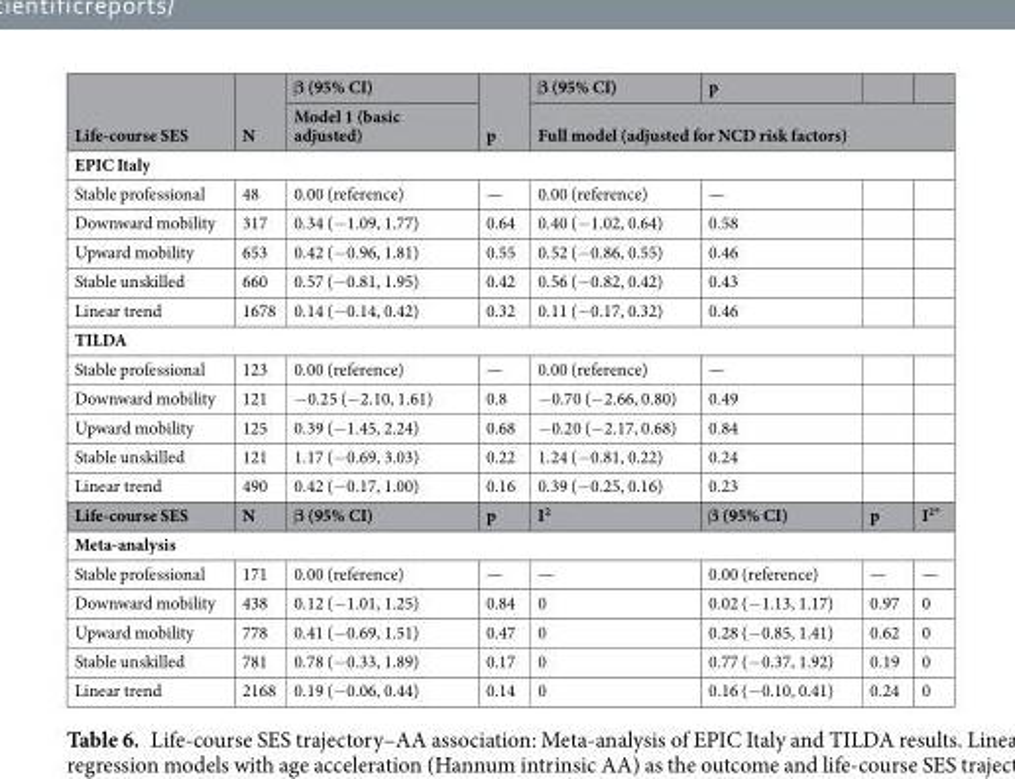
<table><thead><tr><td rowspan="2">Life-course SES</td><td rowspan="2">N</td><td rowspan="2">β (95% CI) Model 1 (basic adjusted)</td><td rowspan="2">p</td><td>β (95% CI)</td><td>p</td><td></td><td></td></tr><tr><td colspan="4">Full model (adjusted for NCD risk factors)</td></tr></thead><tbody><tr><td colspan="8">EPIC Italy</td></tr><tr><td>Stable professional</td><td>48</td><td>0.00 (reference)</td><td>—</td><td>0.00 (reference)</td><td>—</td><td></td><td></td></tr><tr><td>Downward mobility</td><td>317</td><td>0.34 (−1.09, 1.77)</td><td>0.64</td><td>0.40 (−1.02, 0.64)</td><td>0.58</td><td></td><td></td></tr><tr><td>Upward mobility</td><td>653</td><td>0.42 (−0.96, 1.81)</td><td>0.55</td><td>0.52 (−0.86, 0.55)</td><td>0.46</td><td></td><td></td></tr><tr><td>Stable unskilled</td><td>660</td><td>0.57 (−0.81, 1.95)</td><td>0.42</td><td>0.56 (−0.82, 0.42)</td><td>0.43</td><td></td><td></td></tr><tr><td>Linear trend</td><td>1678</td><td>0.14 (−0.14, 0.42)</td><td>0.32</td><td>0.11 (−0.17, 0.32)</td><td>0.46</td><td></td><td></td></tr><tr><td colspan="8">TILDA</td></tr><tr><td>Stable professional</td><td>123</td><td>0.00 (reference)</td><td>—</td><td>0.00 (reference)</td><td>—</td><td></td><td></td></tr><tr><td>Downward mobility</td><td>121</td><td>−0.25 (−2.10, 1.61)</td><td>0.8</td><td>−0.70 (−2.66, 0.80)</td><td>0.49</td><td></td><td></td></tr><tr><td>Upward mobility</td><td>125</td><td>0.39 (−1.45, 2.24)</td><td>0.68</td><td>−0.20 (−2.17, 0.68)</td><td>0.84</td><td></td><td></td></tr><tr><td>Stable unskilled</td><td>121</td><td>1.17 (−0.69, 3.03)</td><td>0.22</td><td>1.24 (−0.81, 0.22)</td><td>0.24</td><td></td><td></td></tr><tr><td>Linear trend</td><td>490</td><td>0.42 (−0.17, 1.00)</td><td>0.16</td><td>0.39 (−0.25, 0.16)</td><td>0.23</td><td></td><td></td></tr><tr><td>Life-course SES</td><td>N</td><td>β (95% CI)</td><td>p</td><td>I<sup>2</sup></td><td>β (95% CI)</td><td>p</td><td>I<sup>2*</sup></td></tr><tr><td colspan="8">Meta-analysis</td></tr><tr><td>Stable professional</td><td>171</td><td>0.00 (reference)</td><td>—</td><td>—</td><td>0.00 (reference)</td><td>—</td><td>—</td></tr><tr><td>Downward mobility</td><td>438</td><td>0.12 (−1.01, 1.25)</td><td>0.84</td><td>0</td><td>0.02 (−1.13, 1.17)</td><td>0.97</td><td>0</td></tr><tr><td>Upward mobility</td><td>778</td><td>0.41 (−0.69, 1.51)</td><td>0.47</td><td>0</td><td>0.28 (−0.85, 1.41)</td><td>0.62</td><td>0</td></tr><tr><td>Stable unskilled</td><td>781</td><td>0.78 (−0.33, 1.89)</td><td>0.17</td><td>0</td><td>0.77 (−0.37, 1.92)</td><td>0.19</td><td>0</td></tr><tr><td>Linear trend</td><td>2168</td><td>0.19 (−0.06, 0.44)</td><td>0.14</td><td>0</td><td>0.16 (−0.10, 0.41)</td><td>0.24</td><td>0</td></tr></tbody></table>